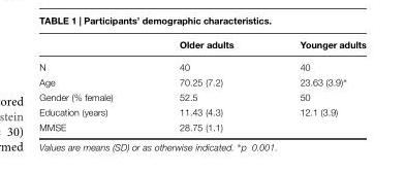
<table><thead><tr><td></td><td>Older adults</td><td>Younger adults</td></tr></thead><tbody><tr><td>N</td><td>40</td><td>40</td></tr><tr><td>Age</td><td>70.25 (7.2)</td><td>23.63 (3.9)∗</td></tr><tr><td>Gender (% female)</td><td>52.5</td><td>50</td></tr><tr><td>Education (years)</td><td>11.43 (4.3)</td><td>12.1 (3.9)</td></tr><tr><td>MMSE</td><td>28.75 (1.1)</td><td></td></tr></tbody></table>